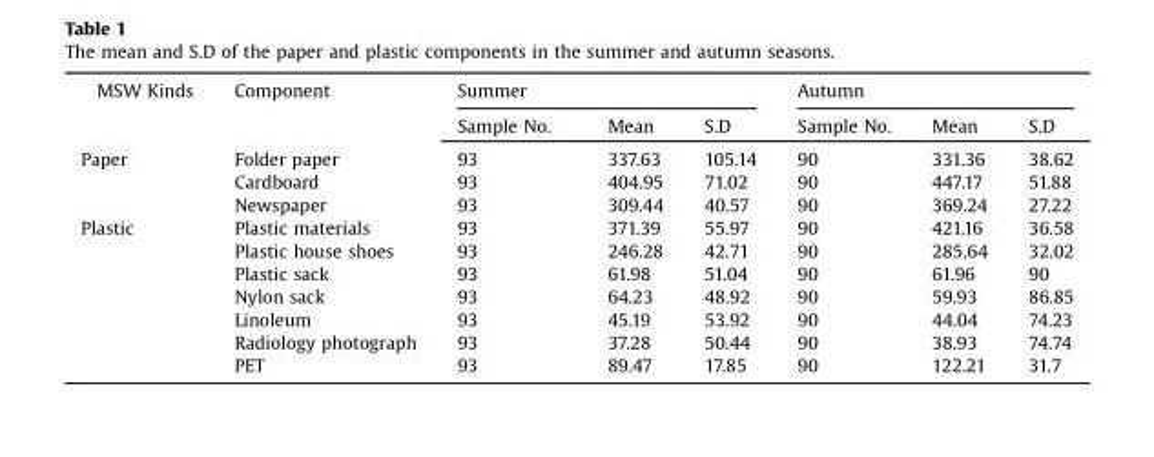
<table><thead><tr><td rowspan="2">MSW Kinds</td><td rowspan="2">Component</td><td colspan="3">Summer</td><td colspan="3">Autumn</td></tr><tr><td>Sample No.</td><td>Mean</td><td>S.D</td><td>Sample No.</td><td>Mean</td><td>S.D</td></tr></thead><tbody><tr><td rowspan="3">Paper</td><td>Folder paper</td><td>93</td><td>337.63</td><td>105.14</td><td>90</td><td>331.36</td><td>38.62</td></tr><tr><td>Cardboard</td><td>93</td><td>404.95</td><td>71.02</td><td>90</td><td>447.17</td><td>51.88</td></tr><tr><td>Newspaper</td><td>93</td><td>309.44</td><td>40.57</td><td>90</td><td>369.24</td><td>27.22</td></tr><tr><td rowspan="7">Plastic</td><td>Plastic materials</td><td>93</td><td>371.39</td><td>55.97</td><td>90</td><td>421.16</td><td>36.58</td></tr><tr><td>Plastic house shoes</td><td>93</td><td>246.28</td><td>42.71</td><td>90</td><td>285.64</td><td>32.02</td></tr><tr><td>Plastic sack</td><td>93</td><td>61.98</td><td>51.04</td><td>90</td><td>61.96</td><td>90</td></tr><tr><td>Nylon sack</td><td>93</td><td>64.23</td><td>48.92</td><td>90</td><td>59.93</td><td>86.85</td></tr><tr><td>Linoleum</td><td>93</td><td>45.19</td><td>53.92</td><td>90</td><td>44.04</td><td>74.23</td></tr><tr><td>Radiology photograph</td><td>93</td><td>37.28</td><td>50.44</td><td>90</td><td>38.93</td><td>74.74</td></tr><tr><td>PET</td><td>93</td><td>89.47</td><td>17.85</td><td>90</td><td>122.21</td><td>31.7</td></tr></tbody></table>